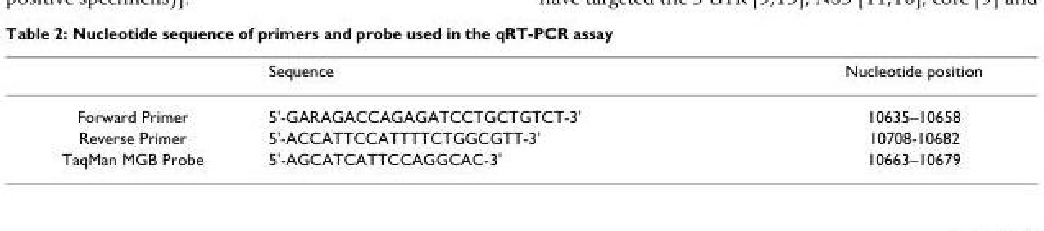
<table><thead><tr><td></td><td>Sequence</td><td>Nucleotide position</td></tr></thead><tbody><tr><td>Forward Primer</td><td>5&#x27;-GARAGACCAGAGATCCTGCTGTCT-3&#x27;</td><td>10635–10658</td></tr><tr><td>Reverse Primer</td><td>5&#x27;-ACCATTCCATTTTCTGGCGTT-3&#x27;</td><td>10708-10682</td></tr><tr><td>TaqMan MGB Probe</td><td>5&#x27;-AGCATCATTCCAGGCAC-3&#x27;</td><td>10663–10679</td></tr></tbody></table>